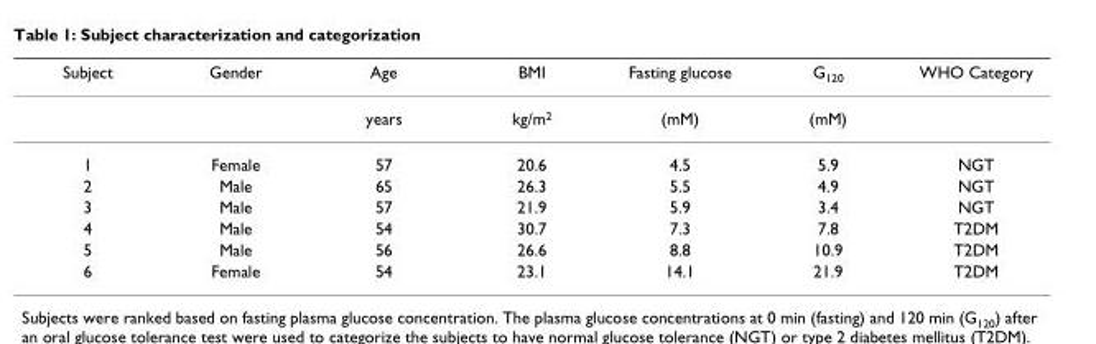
<table><thead><tr><td>Subject</td><td>Gender</td><td>Age</td><td>BMI</td><td>Fasting glucose</td><td>G<sub>120</sub></td><td>WHO Category</td></tr></thead><tbody><tr><td></td><td></td><td>years</td><td>kg/m<sup>2</sup></td><td>(mM)</td><td>(mM)</td><td></td></tr><tr><td>1</td><td>Female</td><td>57</td><td>20.6</td><td>4.5</td><td>5.9</td><td>NGT</td></tr><tr><td>2</td><td>Male</td><td>65</td><td>26.3</td><td>5.5</td><td>4.9</td><td>NGT</td></tr><tr><td>3</td><td>Male</td><td>57</td><td>21.9</td><td>5.9</td><td>3.4</td><td>NGT</td></tr><tr><td>4</td><td>Male</td><td>54</td><td>30.7</td><td>7.3</td><td>7.8</td><td>T2DM</td></tr><tr><td>5</td><td>Male</td><td>56</td><td>26.6</td><td>8.8</td><td>10.9</td><td>T2DM</td></tr><tr><td>6</td><td>Female</td><td>54</td><td>23.1</td><td>14.1</td><td>21.9</td><td>T2DM</td></tr></tbody></table>